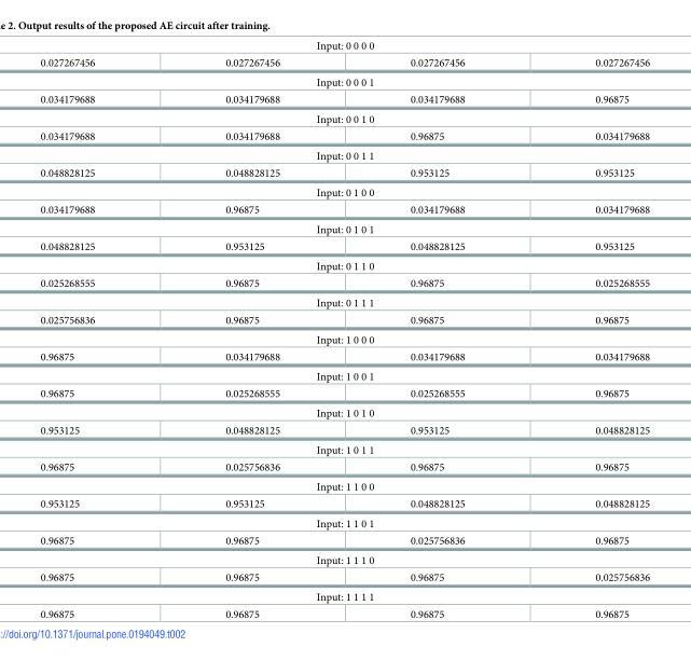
<table><tbody><tr><td colspan="4">Input: 0 0 0 0</td></tr><tr><td>0.027267456</td><td>0.027267456</td><td>0.027267456</td><td>0.027267456</td></tr><tr><td colspan="4">Input: 0 0 0 1</td></tr><tr><td>0.034179688</td><td>0.034179688</td><td>0.034179688</td><td>0.96875</td></tr><tr><td colspan="4">Input: 0 0 1 0</td></tr><tr><td>0.034179688</td><td>0.034179688</td><td>0.96875</td><td>0.034179688</td></tr><tr><td colspan="4">Input: 0 0 1 1</td></tr><tr><td>0.048828125</td><td>0.048828125</td><td>0.953125</td><td>0.953125</td></tr><tr><td colspan="4">Input: 0 1 0 0</td></tr><tr><td>0.034179688</td><td>0.96875</td><td>0.034179688</td><td>0.034179688</td></tr><tr><td colspan="4">Input: 0 1 0 1</td></tr><tr><td>0.048828125</td><td>0.953125</td><td>0.048828125</td><td>0.953125</td></tr><tr><td colspan="4">Input: 0 1 1 0</td></tr><tr><td>0.025268555</td><td>0.96875</td><td>0.96875</td><td>0.025268555</td></tr><tr><td colspan="4">Input: 0 1 1 1</td></tr><tr><td>0.025756836</td><td>0.96875</td><td>0.96875</td><td>0.96875</td></tr><tr><td colspan="4">Input: 1 0 0 0</td></tr><tr><td>0.96875</td><td>0.034179688</td><td>0.034179688</td><td>0.034179688</td></tr><tr><td colspan="4">Input: 1 0 0 1</td></tr><tr><td>0.96875</td><td>0.025268555</td><td>0.025268555</td><td>0.96875</td></tr><tr><td colspan="4">Input: 1 0 1 0</td></tr><tr><td>0.953125</td><td>0.048828125</td><td>0.953125</td><td>0.048828125</td></tr><tr><td colspan="4">Input: 1 0 1 1</td></tr><tr><td>0.96875</td><td>0.025756836</td><td>0.96875</td><td>0.96875</td></tr><tr><td colspan="4">Input: 1 1 0 0</td></tr><tr><td>0.953125</td><td>0.953125</td><td>0.048828125</td><td>0.048828125</td></tr><tr><td colspan="4">Input: 1 1 0 1</td></tr><tr><td>0.96875</td><td>0.96875</td><td>0.025756836</td><td>0.96875</td></tr><tr><td colspan="4">Input: 1 1 1 0</td></tr><tr><td>0.96875</td><td>0.96875</td><td>0.96875</td><td>0.025756836</td></tr><tr><td colspan="4">Input: 1 1 1 1</td></tr><tr><td>0.96875</td><td>0.96875</td><td>0.96875</td><td>0.96875</td></tr></tbody></table>